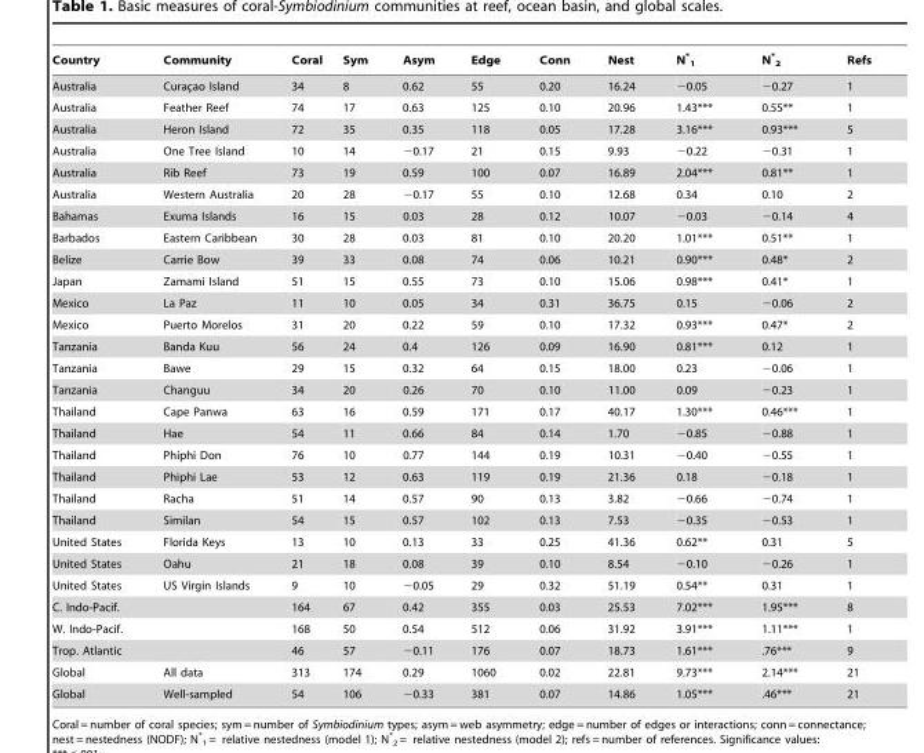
<table><thead><tr><td>Country</td><td>Community</td><td>Coral</td><td>Sym</td><td>Asym</td><td>Edge</td><td>Conn</td><td>Nest</td><td>N* <sub>1</sub></td><td>N* <sub>2</sub></td><td>Refs</td></tr></thead><tbody><tr><td>Australia</td><td>Curac¸ao Island</td><td>34</td><td>8</td><td>0.62</td><td>55</td><td>0.20</td><td>16.24</td><td>−0.05</td><td>−0.27</td><td>1</td></tr><tr><td>Australia</td><td>Feather Reef</td><td>74</td><td>17</td><td>0.63</td><td>125</td><td>0.10</td><td>20.96</td><td>1.43***</td><td>0.55**</td><td>1</td></tr><tr><td>Australia</td><td>Heron Island</td><td>72</td><td>35</td><td>0.35</td><td>118</td><td>0.05</td><td>17.28</td><td>3.16***</td><td>0.93***</td><td>5</td></tr><tr><td>Australia</td><td>One Tree Island</td><td>10</td><td>14</td><td>−0.17</td><td>21</td><td>0.15</td><td>9.93</td><td>−0.22</td><td>−0.31</td><td>1</td></tr><tr><td>Australia</td><td>Rib Reef</td><td>73</td><td>19</td><td>0.59</td><td>100</td><td>0.07</td><td>16.89</td><td>2.04***</td><td>0.81**</td><td>1</td></tr><tr><td>Australia</td><td>Western Australia</td><td>20</td><td>28</td><td>−0.17</td><td>55</td><td>0.10</td><td>12.68</td><td>0.34</td><td>0.10</td><td>2</td></tr><tr><td>Bahamas</td><td>Exuma Islands</td><td>16</td><td>15</td><td>0.03</td><td>28</td><td>0.12</td><td>10.07</td><td>−0.03</td><td>−0.14</td><td>4</td></tr><tr><td>Barbados</td><td>Eastern Caribbean</td><td>30</td><td>28</td><td>0.03</td><td>81</td><td>0.10</td><td>20.20</td><td>1.01***</td><td>0.51**</td><td>1</td></tr><tr><td>Belize</td><td>Carrie Bow</td><td>39</td><td>33</td><td>0.08</td><td>74</td><td>0.06</td><td>10.21</td><td>0.90***</td><td>0.48*</td><td>2</td></tr><tr><td>Japan</td><td>Zamami Island</td><td>51</td><td>15</td><td>0.55</td><td>73</td><td>0.10</td><td>15.06</td><td>0.98***</td><td>0.41*</td><td>1</td></tr><tr><td>Mexico</td><td>La Paz</td><td>11</td><td>10</td><td>0.05</td><td>34</td><td>0.31</td><td>36.75</td><td>0.15</td><td>−0.06</td><td>2</td></tr><tr><td>Mexico</td><td>Puerto Morelos</td><td>31</td><td>20</td><td>0.22</td><td>59</td><td>0.10</td><td>17.32</td><td>0.93***</td><td>0.47*</td><td>2</td></tr><tr><td>Tanzania</td><td>Banda Kuu</td><td>56</td><td>24</td><td>0.4</td><td>126</td><td>0.09</td><td>16.90</td><td>0.81***</td><td>0.12</td><td>1</td></tr><tr><td>Tanzania</td><td>Bawe</td><td>29</td><td>15</td><td>0.32</td><td>64</td><td>0.15</td><td>18.00</td><td>0.23</td><td>−0.06</td><td>1</td></tr><tr><td>Tanzania</td><td>Changuu</td><td>34</td><td>20</td><td>0.26</td><td>70</td><td>0.10</td><td>11.00</td><td>0.09</td><td>−0.23</td><td>1</td></tr><tr><td>Thailand</td><td>Cape Panwa</td><td>63</td><td>16</td><td>0.59</td><td>171</td><td>0.17</td><td>40.17</td><td>1.30***</td><td>0.46***</td><td>1</td></tr><tr><td>Thailand</td><td>Hae</td><td>54</td><td>11</td><td>0.66</td><td>84</td><td>0.14</td><td>1.70</td><td>−0.85</td><td>−0.88</td><td>1</td></tr><tr><td>Thailand</td><td>Phiphi Don</td><td>76</td><td>10</td><td>0.77</td><td>144</td><td>0.19</td><td>10.31</td><td>−0.40</td><td>−0.55</td><td>1</td></tr><tr><td>Thailand</td><td>Phiphi Lae</td><td>53</td><td>12</td><td>0.63</td><td>119</td><td>0.19</td><td>21.36</td><td>0.18</td><td>−0.18</td><td>1</td></tr><tr><td>Thailand</td><td>Racha</td><td>51</td><td>14</td><td>0.57</td><td>90</td><td>0.13</td><td>3.82</td><td>−0.66</td><td>−0.74</td><td>1</td></tr><tr><td>Thailand</td><td>Similan</td><td>54</td><td>15</td><td>0.57</td><td>102</td><td>0.13</td><td>7.53</td><td>−0.35</td><td>−0.53</td><td>1</td></tr><tr><td>United States</td><td>Florida Keys</td><td>13</td><td>10</td><td>0.13</td><td>33</td><td>0.25</td><td>41.36</td><td>0.62**</td><td>0.31</td><td>5</td></tr><tr><td>United States</td><td>Oahu</td><td>21</td><td>18</td><td>0.08</td><td>39</td><td>0.10</td><td>8.54</td><td>−0.10</td><td>−0.26</td><td>1</td></tr><tr><td>United States</td><td>US Virgin Islands</td><td>9</td><td>10</td><td>−0.05</td><td>29</td><td>0.32</td><td>51.19</td><td>0.54**</td><td>0.31</td><td>1</td></tr><tr><td colspan="2">C. Indo-Pacif.</td><td>164</td><td>67</td><td>0.42</td><td>355</td><td>0.03</td><td>25.53</td><td>7.02***</td><td>1.95***</td><td>8</td></tr><tr><td colspan="2">W. Indo-Pacif.</td><td>168</td><td>50</td><td>0.54</td><td>512</td><td>0.06</td><td>31.92</td><td>3.91***</td><td>1.11***</td><td>1</td></tr><tr><td colspan="2">Trop. Atlantic</td><td>46</td><td>57</td><td>−0.11</td><td>176</td><td>0.07</td><td>18.73</td><td>1.61***</td><td>.76***</td><td>9</td></tr><tr><td>Global</td><td>All data</td><td>313</td><td>174</td><td>0.29</td><td>1060</td><td>0.02</td><td>22.81</td><td>9.73***</td><td>2.14***</td><td>21</td></tr><tr><td>Global</td><td>Well-sampled</td><td>54</td><td>106</td><td>−0.33</td><td>381</td><td>0.07</td><td>14.86</td><td>1.05***</td><td>.46***</td><td>21</td></tr></tbody></table>